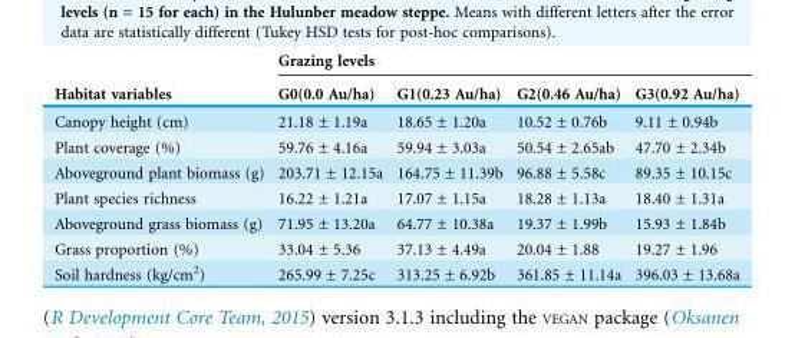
<table><thead><tr><td rowspan="2">Habitat variables</td><td colspan="4">Grazing levels</td></tr><tr><td>G0(0.0 Au/ha)</td><td>G1(0.23 Au/ha)</td><td>G2(0.46 Au/ha)</td><td>G3(0.92 Au/ha)</td></tr></thead><tbody><tr><td>Canopy height (cm)</td><td>21.18 ± 1.19a</td><td>18.65 ± 1.20a</td><td>10.52 ± 0.76b</td><td>9.11 ± 0.94b</td></tr><tr><td>Plant coverage (%)</td><td>59.76 ± 4.16a</td><td>59.94 ± 3.03a</td><td>50.54 ± 2.65ab</td><td>47.70 ± 2.34b</td></tr><tr><td>Aboveground plant biomass (g)</td><td>203.71 ± 12.15a</td><td>164.75 ± 11.39b</td><td>96.88 ± 5.58c</td><td>89.35 ± 10.15c</td></tr><tr><td>Plant species richness</td><td>16.22 ± 1.21a</td><td>17.07 ± 1.15a</td><td>18.28 ± 1.13a</td><td>18.40 ± 1.31a</td></tr><tr><td>Aboveground grass biomass (g)</td><td>71.95 ± 13.20a</td><td>64.77 ± 10.38a</td><td>19.37 ± 1.99b</td><td>15.93 ± 1.84b</td></tr><tr><td>Grass proportion (%)</td><td>33.04 ± 5.36</td><td>37.13 ± 4.49a</td><td>20.04 ± 1.88</td><td>19.27 ± 1.96</td></tr><tr><td>Soil hardness (kg/cm<sup>2</sup>)</td><td>265.99 ± 7.25c</td><td>313.25 ± 6.92b</td><td>361.85 ± 11.14a</td><td>396.03 ± 13.68a</td></tr></tbody></table>